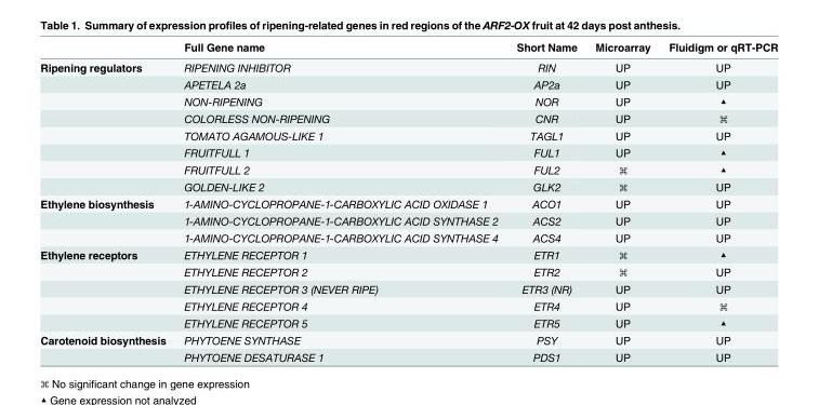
<table><thead><tr><td></td><td>Full Gene name</td><td>Short Name</td><td>Microarray</td><td>Fluidigm or qRT-PCR</td></tr></thead><tbody><tr><td rowspan="8">Ripening regulators</td><td>RIPENING INHIBITOR</td><td>RIN</td><td>UP</td><td>UP</td></tr><tr><td>APETELA 2a</td><td>AP2a</td><td>UP</td><td>UP</td></tr><tr><td>NON-RIPENING</td><td>NOR</td><td>UP</td><td>▲</td></tr><tr><td>COLORLESS NON-RIPENING</td><td>CNR</td><td>UP</td><td>⌘</td></tr><tr><td>TOMATO AGAMOUS-LIKE 1</td><td>TAGL1</td><td>UP</td><td>UP</td></tr><tr><td>FRUITFULL 1</td><td>FUL1</td><td>UP</td><td>▲</td></tr><tr><td>FRUITFULL 2</td><td>FUL2</td><td>⌘</td><td>▲</td></tr><tr><td>GOLDEN-LIKE 2</td><td>GLK2</td><td>⌘</td><td>UP</td></tr><tr><td rowspan="3">Ethylene biosynthesis</td><td>1-AMINO-CYCLOPROPANE-1-CARBOXYLIC ACID OXIDASE 1</td><td>ACO1</td><td>UP</td><td>UP</td></tr><tr><td>1-AMINO-CYCLOPROPANE-1-CARBOXYLIC ACID SYNTHASE 2</td><td>ACS2</td><td>UP</td><td>UP</td></tr><tr><td>1-AMINO-CYCLOPROPANE-1-CARBOXYLIC ACID SYNTHASE 4</td><td>ACS4</td><td>UP</td><td>UP</td></tr><tr><td rowspan="5">Ethylene receptors</td><td>ETHYLENE RECEPTOR 1</td><td>ETR1</td><td>⌘</td><td>▲</td></tr><tr><td>ETHYLENE RECEPTOR 2</td><td>ETR2</td><td>⌘</td><td>UP</td></tr><tr><td>ETHYLENE RECEPTOR 3 (NEVER RIPE)</td><td>ETR3 (NR)</td><td>UP</td><td>UP</td></tr><tr><td>ETHYLENE RECEPTOR 4</td><td>ETR4</td><td>UP</td><td>⌘</td></tr><tr><td>ETHYLENE RECEPTOR 5</td><td>ETR5</td><td>UP</td><td>▲</td></tr><tr><td rowspan="2">Carotenoid biosynthesis</td><td>PHYTOENE SYNTHASE</td><td>PSY</td><td>UP</td><td>UP</td></tr><tr><td>PHYTOENE DESATURASE 1</td><td>PDS1</td><td>UP</td><td>UP</td></tr></tbody></table>